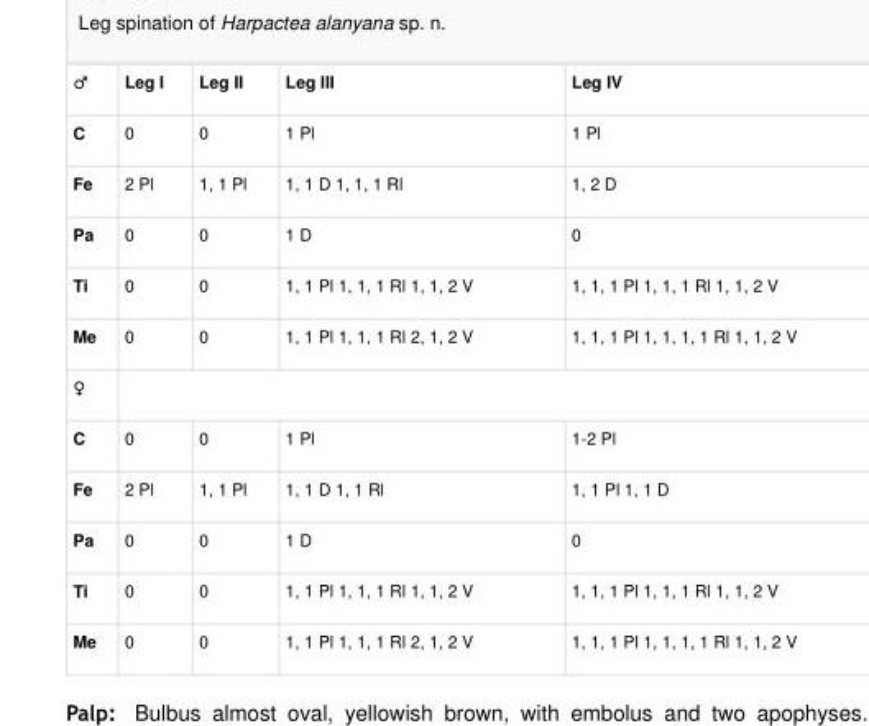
<table><tbody><tr><td>♂</td><td>Leg I</td><td>Leg II</td><td>Leg III</td><td>Leg IV</td></tr><tr><td>C</td><td>0</td><td>0</td><td>1 Pl</td><td>1 Pl</td></tr><tr><td>Fe</td><td>2 Pl</td><td>1, 1 Pl</td><td>1, 1 D 1, 1, 1 Rl</td><td>1, 2 D</td></tr><tr><td>Pa</td><td>0</td><td>0</td><td>1 D</td><td>0</td></tr><tr><td>Ti</td><td>0</td><td>0</td><td>1, 1 Pl 1, 1, 1 Rl 1, 1, 2 V</td><td>1, 1, 1 Pl 1, 1, 1 Rl 1, 1, 2 V</td></tr><tr><td>Me</td><td>0</td><td>0</td><td>1, 1 Pl 1, 1, 1 Rl 2, 1, 2 V</td><td>1, 1, 1 Pl 1, 1, 1, 1 Rl 1, 1, 2 V</td></tr><tr><td colspan="5">♀</td></tr><tr><td>C</td><td>0</td><td>0</td><td>1 Pl</td><td>1-2 Pl</td></tr><tr><td>Fe</td><td>2 Pl</td><td>1, 1 Pl</td><td>1, 1 D 1, 1 Rl</td><td>1, 1 Pl 1, 1 D</td></tr><tr><td>Pa</td><td>0</td><td>0</td><td>1 D</td><td>0</td></tr><tr><td>Ti</td><td>0</td><td>0</td><td>1, 1 Pl 1, 1, 1 Rl 1, 1, 2 V</td><td>1, 1, 1 Pl 1, 1, 1 Rl 1, 1, 2 V</td></tr><tr><td>Me</td><td>0</td><td>0</td><td>1, 1 Pl 1, 1, 1 Rl 2, 1, 2 V</td><td>1, 1, 1 Pl 1, 1, 1, 1 Rl 1, 1, 2 V</td></tr></tbody></table>